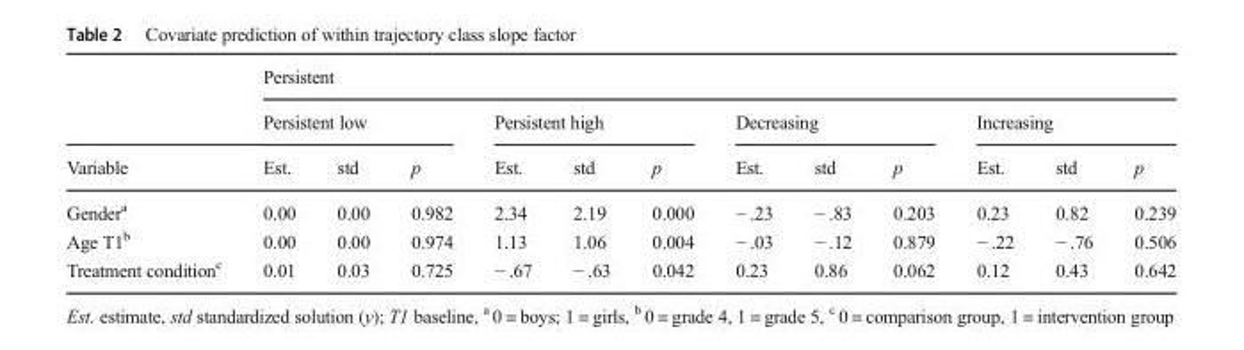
<table><thead><tr><td rowspan="3">Variable</td><td colspan="12">Persistent</td></tr><tr><td colspan="3">Persistent low</td><td colspan="3">Persistent high</td><td colspan="3">Decreasing</td><td colspan="3">Increasing</td></tr><tr><td>Est.</td><td>std</td><td>p</td><td>Est.</td><td>std</td><td>p</td><td>Est.</td><td>std</td><td>p</td><td>Est.</td><td>std</td><td>p</td></tr></thead><tbody><tr><td>Gender<sup>a</sup></td><td>0.00</td><td>0.00</td><td>0.982</td><td>2.34</td><td>2.19</td><td>0.000</td><td>− .23</td><td>− .83</td><td>0.203</td><td>0.23</td><td>0.82</td><td>0.239</td></tr><tr><td>Age T1<sup>b</sup></td><td>0.00</td><td>0.00</td><td>0.974</td><td>1.13</td><td>1.06</td><td>0.004</td><td>− .03</td><td>− .12</td><td>0.879</td><td>− .22</td><td>− .76</td><td>0.506</td></tr><tr><td>Treatment condition<sup>c</sup></td><td>0.01</td><td>0.03</td><td>0.725</td><td>− .67</td><td>− .63</td><td>0.042</td><td>0.23</td><td>0.86</td><td>0.062</td><td>0.12</td><td>0.43</td><td>0.642</td></tr></tbody></table>